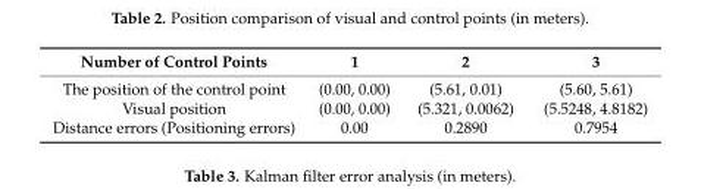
<table><thead><tr><td>Number of Control Points</td><td>1</td><td>2</td><td>3</td></tr></thead><tbody><tr><td>The position of the control point</td><td>(0.00, 0.00)</td><td>(5.61, 0.01)</td><td>(5.60, 5.61)</td></tr><tr><td>Visual position</td><td>(0.00, 0.00)</td><td>(5.321, 0.0062)</td><td>(5.5248, 4.8182)</td></tr><tr><td>Distance errors (Positioning errors)</td><td>0.00</td><td>0.2890</td><td>0.7954</td></tr></tbody></table>